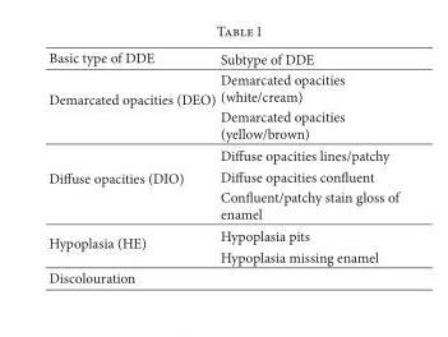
<table><thead><tr><td>Basic type of DDE</td><td>Subtype of DDE</td></tr></thead><tbody><tr><td rowspan="2">Demarcated opacities (DEO)</td><td>Demarcated opacities (white/cream)</td></tr><tr><td>Demarcated opacities (yellow/brown)</td></tr><tr><td rowspan="3">Diffuse opacities (DIO)</td><td>Diffuse opacities lines/patchy</td></tr><tr><td>Diffuse opacities confluent</td></tr><tr><td>Confluent/patchy stain gloss of enamel</td></tr><tr><td rowspan="2">Hypoplasia (HE)</td><td>Hypoplasia pits</td></tr><tr><td>Hypoplasia missing enamel</td></tr><tr><td>Discolouration</td><td></td></tr></tbody></table>